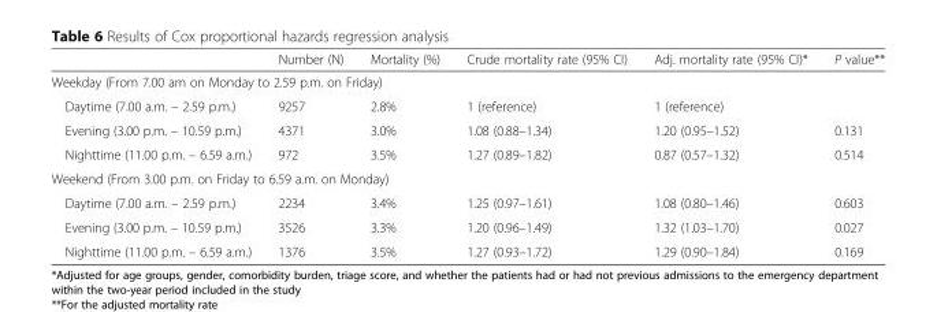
<table><thead><tr><td></td><td>Number (N)</td><td>Mortality (%)</td><td>Crude mortality rate (95% CI)</td><td>Adj. mortality rate (95% CI)*</td><td>P value**</td></tr></thead><tbody><tr><td colspan="6">Weekday (From 7.00 am on Monday to 2.59 p.m. on Friday)</td></tr><tr><td>Daytime (7.00 a.m. – 2.59 p.m.)</td><td>9257</td><td>2.8%</td><td>1 (reference)</td><td>1 (reference)</td><td></td></tr><tr><td>Evening (3.00 p.m. – 10.59 p.m.)</td><td>4371</td><td>3.0%</td><td>1.08 (0.88–1.34)</td><td>1.20 (0.95–1.52)</td><td>0.131</td></tr><tr><td>Nighttime (11.00 p.m. – 6.59 a.m.)</td><td>972</td><td>3.5%</td><td>1.27 (0.89–1.82)</td><td>0.87 (0.57–1.32)</td><td>0.514</td></tr><tr><td colspan="6">Weekend (From 3.00 p.m. on Friday to 6.59 a.m. on Monday)</td></tr><tr><td>Daytime (7.00 a.m. – 2.59 p.m.)</td><td>2234</td><td>3.4%</td><td>1.25 (0.97–1.61)</td><td>1.08 (0.80–1.46)</td><td>0.603</td></tr><tr><td>Evening (3.00 p.m. – 10.59 p.m.)</td><td>3526</td><td>3.3%</td><td>1.20 (0.96–1.49)</td><td>1.32 (1.03–1.70)</td><td>0.027</td></tr><tr><td>Nighttime (11.00 p.m. – 6.59 a.m.)</td><td>1376</td><td>3.5%</td><td>1.27 (0.93–1.72)</td><td>1.29 (0.90–1.84)</td><td>0.169</td></tr></tbody></table>